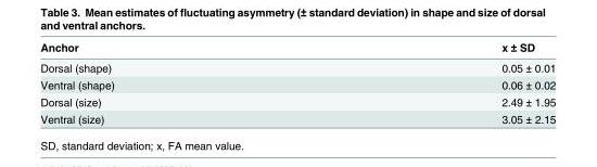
<table><thead><tr><td>Anchor</td><td>x ± SD</td></tr></thead><tbody><tr><td>Dorsal (shape)</td><td>0.05 ± 0.01</td></tr><tr><td>Ventral (shape)</td><td>0.06 ± 0.02</td></tr><tr><td>Dorsal (size)</td><td>2.49 ± 1.95</td></tr><tr><td>Ventral (size)</td><td>3.05 ± 2.15</td></tr></tbody></table>